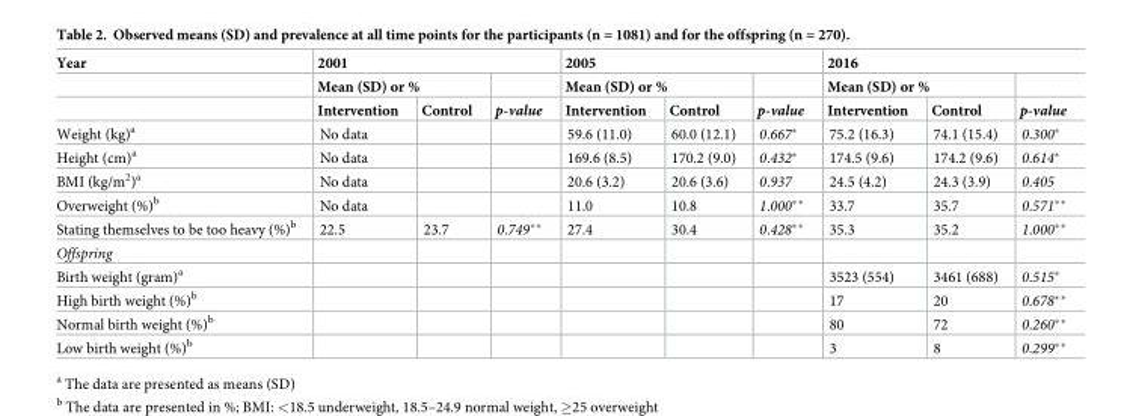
<table><thead><tr><td rowspan="3">Year</td><td colspan="3">2001</td><td colspan="3">2005</td><td colspan="3">2016</td></tr><tr><td colspan="2">Mean (SD) or %</td><td rowspan="2">p-value</td><td colspan="2">Mean (SD) or %</td><td rowspan="2">p-value</td><td colspan="2">Mean (SD) or %</td><td rowspan="2">p-value</td></tr><tr><td>Intervention</td><td>Control</td><td>Intervention</td><td>Control</td><td>Intervention</td><td>Control</td></tr></thead><tbody><tr><td>Weight (kg)<sup>a</sup></td><td>No data</td><td></td><td></td><td>59.6 (11.0)</td><td>60.0 (12.1)</td><td>0.667*</td><td>75.2 (16.3)</td><td>74.1 (15.4)</td><td>0.300*</td></tr><tr><td>Height (cm)<sup>a</sup></td><td>No data</td><td></td><td></td><td>169.6 (8.5)</td><td>170.2 (9.0)</td><td>0.432*</td><td>174.5 (9.6)</td><td>174.2 (9.6)</td><td>0.614*</td></tr><tr><td>BMI (kg/m<sup>2</sup>)<sup>a</sup></td><td>No data</td><td></td><td></td><td>20.6 (3.2)</td><td>20.6 (3.6)</td><td>0.937</td><td>24.5 (4.2)</td><td>24.3 (3.9)</td><td>0.405</td></tr><tr><td>Overweight (%)<sup>b</sup></td><td>No data</td><td></td><td></td><td>11.0</td><td>10.8</td><td>1.000**</td><td>33.7</td><td>35.7</td><td>0.571**</td></tr><tr><td>Stating themselves to be too heavy (%)<sup>b</sup></td><td>22.5</td><td>23.7</td><td>0.749**</td><td>27.4</td><td>30.4</td><td>0.428**</td><td>35.3</td><td>35.2</td><td>1.000**</td></tr><tr><td colspan="10">Offspring</td></tr><tr><td>Birth weight (gram)<sup>a</sup></td><td></td><td></td><td></td><td></td><td></td><td></td><td>3523 (554)</td><td>3461 (688)</td><td>0.515*</td></tr><tr><td>High birth weight (%)<sup>b</sup></td><td></td><td></td><td></td><td></td><td></td><td></td><td>17</td><td>20</td><td>0.678**</td></tr><tr><td>Normal birth weight (%)<sup>b</sup></td><td></td><td></td><td></td><td></td><td></td><td></td><td>80</td><td>72</td><td>0.260**</td></tr><tr><td>Low birth weight (%)<sup>b</sup></td><td></td><td></td><td></td><td></td><td></td><td></td><td>3</td><td>8</td><td>0.299**</td></tr></tbody></table>